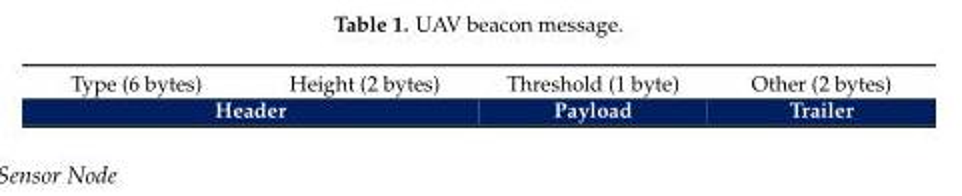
<table><tbody><tr><td>Type (6 bytes)</td><td>Height (2 bytes)</td><td>Threshold (1 byte)</td><td>Other (2 bytes)</td></tr><tr><td colspan="2">Header</td><td>Payload</td><td>Trailer</td></tr></tbody></table>